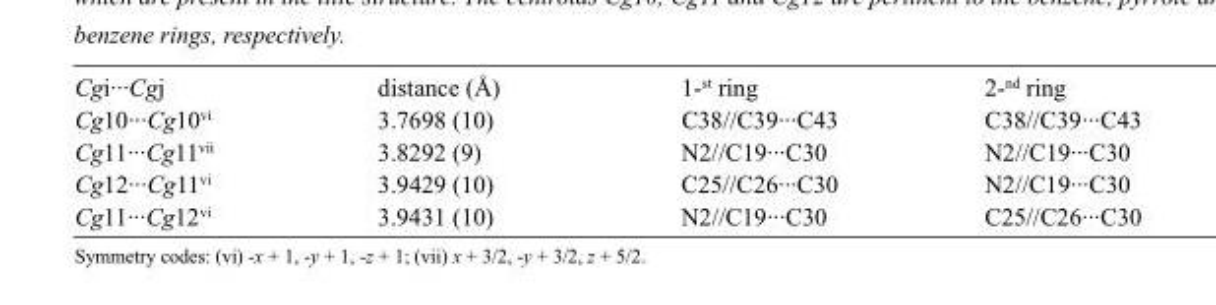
<table><tbody><tr><td>Cgi···Cgj</td><td>distance (Å)</td><td>1-<sup>st</sup> ring</td><td>2-<sup>nd</sup> ring</td></tr><tr><td>Cg10···Cg10<sup>vi</sup></td><td>3.7698 (10)</td><td>C38//C39···C43</td><td>C38//C39···C43</td></tr><tr><td>Cg11···Cg11<sup>vii</sup></td><td>3.8292 (9)</td><td>N2//C19···C30</td><td>N2//C19···C30</td></tr><tr><td>Cg12···Cg11<sup>vi</sup></td><td>3.9429 (10)</td><td>C25//C26···C30</td><td>N2//C19···C30</td></tr><tr><td>Cg11···Cg12<sup>vi</sup></td><td>3.9431 (10)</td><td>N2//C19···C30</td><td>C25//C26···C30</td></tr></tbody></table>